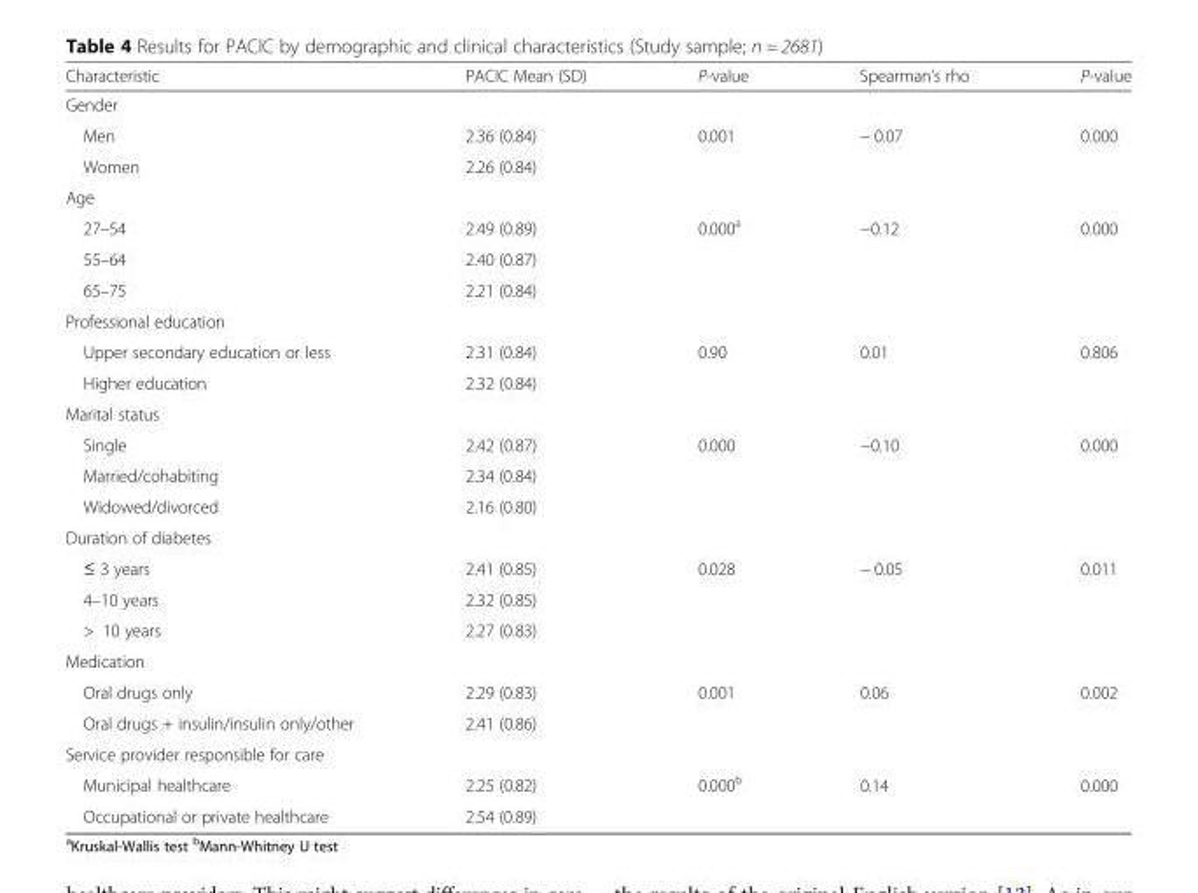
<table><thead><tr><td>Characteristic</td><td>PACIC Mean (SD)</td><td>P-value</td><td>Spearman’s rho</td><td>P-value</td></tr></thead><tbody><tr><td colspan="5">Gender</td></tr><tr><td>Men</td><td>2.36 (0.84)</td><td>0.001</td><td>− 0.07</td><td>0.000</td></tr><tr><td>Women</td><td>2.26 (0.84)</td><td></td><td></td><td></td></tr><tr><td colspan="5">Age</td></tr><tr><td>27–54</td><td>2.49 (0.89)</td><td>0.000<sup>a</sup></td><td>−0.12</td><td>0.000</td></tr><tr><td>55–64</td><td>2.40 (0.87)</td><td></td><td></td><td></td></tr><tr><td>65–75</td><td>2.21 (0.84)</td><td></td><td></td><td></td></tr><tr><td colspan="5">Professional education</td></tr><tr><td>Upper secondary education or less</td><td>2.31 (0.84)</td><td>0.90</td><td>0.01</td><td>0.806</td></tr><tr><td>Higher education</td><td>2.32 (0.84)</td><td></td><td></td><td></td></tr><tr><td colspan="5">Marital status</td></tr><tr><td>Single</td><td>2.42 (0.87)</td><td>0.000</td><td>−0.10</td><td>0.000</td></tr><tr><td>Married/cohabiting</td><td>2.34 (0.84)</td><td></td><td></td><td></td></tr><tr><td>Widowed/divorced</td><td>2.16 (0.80)</td><td></td><td></td><td></td></tr><tr><td colspan="5">Duration of diabetes</td></tr><tr><td>≤ 3 years</td><td>2.41 (0.85)</td><td>0.028</td><td>− 0.05</td><td>0.011</td></tr><tr><td>4–10 years</td><td>2.32 (0.85)</td><td></td><td></td><td></td></tr><tr><td>&gt; 10 years</td><td>2.27 (0.83)</td><td></td><td></td><td></td></tr><tr><td colspan="5">Medication</td></tr><tr><td>Oral drugs only</td><td>2.29 (0.83)</td><td>0.001</td><td>0.06</td><td>0.002</td></tr><tr><td>Oral drugs + insulin/insulin only/other</td><td>2.41 (0.86)</td><td></td><td></td><td></td></tr><tr><td colspan="5">Service provider responsible for care</td></tr><tr><td>Municipal healthcare</td><td>2.25 (0.82)</td><td>0.000<sup>b</sup></td><td>0.14</td><td>0.000</td></tr><tr><td>Occupational or private healthcare</td><td>2.54 (0.89)</td><td></td><td></td><td></td></tr></tbody></table>